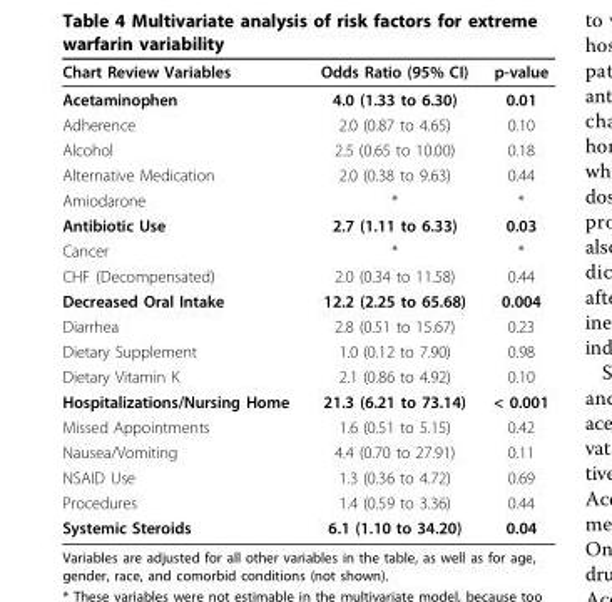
<table><thead><tr><td>Chart Review Variables</td><td>Odds Ratio (95% CI)</td><td>p-value</td></tr></thead><tbody><tr><td>Acetaminophen</td><td>4.0 (1.33 to 6.30)</td><td>0.01</td></tr><tr><td>Adherence</td><td>2.0 (0.87 to 4.65)</td><td>0.10</td></tr><tr><td>Alcohol</td><td>2.5 (0.65 to 10.00)</td><td>0.18</td></tr><tr><td>Alternative Medication</td><td>2.0 (0.38 to 9.63)</td><td>0.44</td></tr><tr><td>Amiodarone</td><td>*</td><td>*</td></tr><tr><td>Antibiotic Use</td><td>2.7 (1.11 to 6.33)</td><td>0.03</td></tr><tr><td>Cancer</td><td>*</td><td>*</td></tr><tr><td>CHF (Decompensated)</td><td>2.0 (0.34 to 11.58)</td><td>0.44</td></tr><tr><td>Decreased Oral Intake</td><td>12.2 (2.25 to 65.68)</td><td>0.004</td></tr><tr><td>Diarrhea</td><td>2.8 (0.51 to 15.67)</td><td>0.23</td></tr><tr><td>Dietary Supplement</td><td>1.0 (0.12 to 7.90)</td><td>0.98</td></tr><tr><td>Dietary Vitamin K</td><td>2.1 (0.86 to 4.92)</td><td>0.10</td></tr><tr><td>Hospitalizations/Nursing Home</td><td>21.3 (6.21 to 73.14)</td><td>&lt; 0.001</td></tr><tr><td>Missed Appointments</td><td>1.6 (0.51 to 5.15)</td><td>0.42</td></tr><tr><td>Nausea/Vomiting</td><td>4.4 (0.70 to 27.91)</td><td>0.11</td></tr><tr><td>NSAID Use</td><td>1.3 (0.36 to 4.72)</td><td>0.69</td></tr><tr><td>Procedures</td><td>1.4 (0.59 to 3.36)</td><td>0.44</td></tr><tr><td>Systemic Steroids</td><td>6.1 (1.10 to 34.20)</td><td>0.04</td></tr></tbody></table>